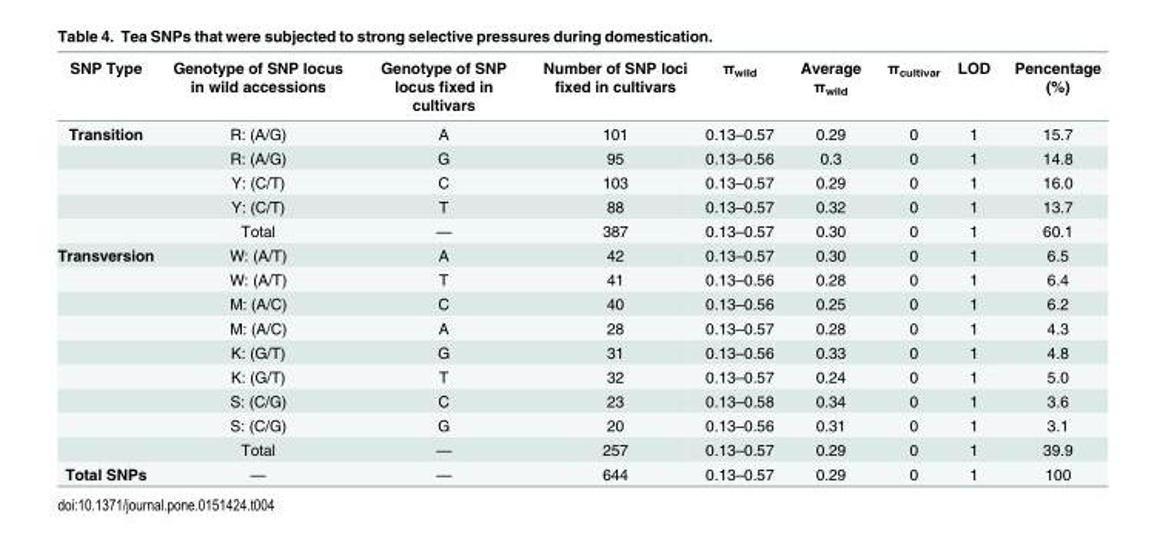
<table><thead><tr><td>SNP Type</td><td>Genotype of SNP locus in wild accessions</td><td>Genotype of SNP locus fixed in cultivars</td><td>Number of SNP loci fixed in cultivars</td><td>π<sub>wild</sub></td><td>Average π<sub>wild</sub></td><td>π<sub>cultivar</sub></td><td>LOD</td><td>Pencentage (%)</td></tr></thead><tbody><tr><td rowspan="5">Transition</td><td>R: (A/G)</td><td>A</td><td>101</td><td>0.13–0.57</td><td>0.29</td><td>0</td><td>1</td><td>15.7</td></tr><tr><td>R: (A/G)</td><td>G</td><td>95</td><td>0.13–0.56</td><td>0.3</td><td>0</td><td>1</td><td>14.8</td></tr><tr><td>Y: (C/T)</td><td>C</td><td>103</td><td>0.13–0.57</td><td>0.29</td><td>0</td><td>1</td><td>16.0</td></tr><tr><td>Y: (C/T)</td><td>T</td><td>88</td><td>0.13–0.57</td><td>0.32</td><td>0</td><td>1</td><td>13.7</td></tr><tr><td>Total</td><td>—</td><td>387</td><td>0.13–0.57</td><td>0.30</td><td>0</td><td>1</td><td>60.1</td></tr><tr><td rowspan="9">Transversion</td><td>W: (A/T)</td><td>A</td><td>42</td><td>0.13–0.57</td><td>0.30</td><td>0</td><td>1</td><td>6.5</td></tr><tr><td>W: (A/T)</td><td>T</td><td>41</td><td>0.13–0.56</td><td>0.28</td><td>0</td><td>1</td><td>6.4</td></tr><tr><td>M: (A/C)</td><td>C</td><td>40</td><td>0.13–0.56</td><td>0.25</td><td>0</td><td>1</td><td>6.2</td></tr><tr><td>M: (A/C)</td><td>A</td><td>28</td><td>0.13–0.57</td><td>0.28</td><td>0</td><td>1</td><td>4.3</td></tr><tr><td>K: (G/T)</td><td>G</td><td>31</td><td>0.13–0.56</td><td>0.33</td><td>0</td><td>1</td><td>4.8</td></tr><tr><td>K: (G/T)</td><td>T</td><td>32</td><td>0.13–0.57</td><td>0.24</td><td>0</td><td>1</td><td>5.0</td></tr><tr><td>S: (C/G)</td><td>C</td><td>23</td><td>0.13–0.58</td><td>0.34</td><td>0</td><td>1</td><td>3.6</td></tr><tr><td>S: (C/G)</td><td>G</td><td>20</td><td>0.13–0.56</td><td>0.31</td><td>0</td><td>1</td><td>3.1</td></tr><tr><td>Total</td><td>—</td><td>257</td><td>0.13–0.57</td><td>0.29</td><td>0</td><td>1</td><td>39.9</td></tr><tr><td>Total SNPs</td><td>—</td><td>—</td><td>644</td><td>0.13–0.57</td><td>0.29</td><td>0</td><td>1</td><td>100</td></tr></tbody></table>